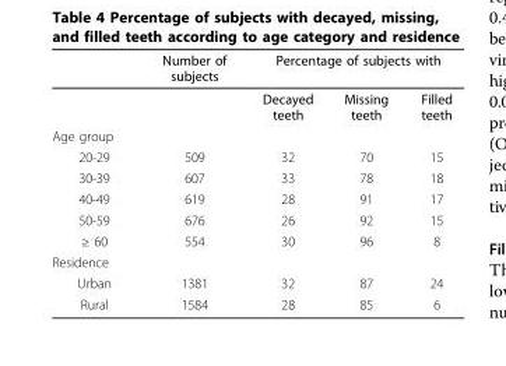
<table><thead><tr><td rowspan="2"></td><td rowspan="2">Number of subjects</td><td colspan="3">Percentage of subjects with</td></tr><tr><td>Decayed teeth</td><td>Missing teeth</td><td>Filled teeth</td></tr></thead><tbody><tr><td colspan="5">Age group</td></tr><tr><td>20-29</td><td>509</td><td>32</td><td>70</td><td>15</td></tr><tr><td>30-39</td><td>607</td><td>33</td><td>78</td><td>18</td></tr><tr><td>40-49</td><td>619</td><td>28</td><td>91</td><td>17</td></tr><tr><td>50-59</td><td>676</td><td>26</td><td>92</td><td>15</td></tr><tr><td>≥ 60</td><td>554</td><td>30</td><td>96</td><td>8</td></tr><tr><td colspan="5">Residence</td></tr><tr><td>Urban</td><td>1381</td><td>32</td><td>87</td><td>24</td></tr><tr><td>Rural</td><td>1584</td><td>28</td><td>85</td><td>6</td></tr></tbody></table>